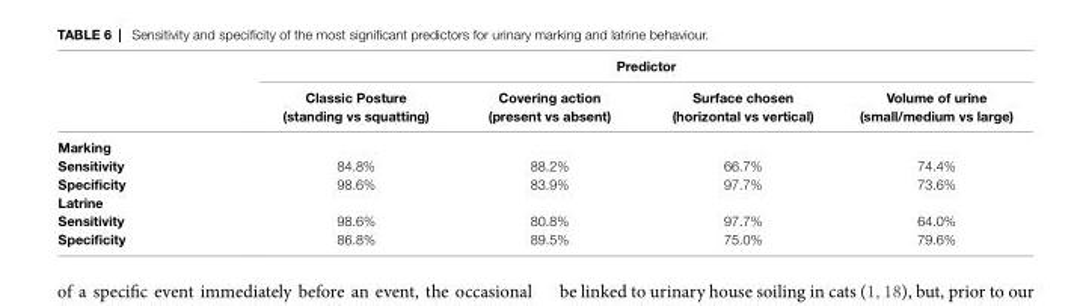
<table><thead><tr><td rowspan="2"></td><td colspan="4">Predictor</td></tr><tr><td>classic Posture (standing vs squatting)</td><td>covering action (present vs absent)</td><td>surface chosen (horizontal vs vertical)</td><td>Volume of urine (small/medium vs large)</td></tr></thead><tbody><tr><td colspan="5">Marking</td></tr><tr><td>sensitivity</td><td>84.8%</td><td>88.2%</td><td>66.7%</td><td>74.4%</td></tr><tr><td>specificity</td><td>98.6%</td><td>83.9%</td><td>97.7%</td><td>73.6%</td></tr><tr><td colspan="5">latrine</td></tr><tr><td>sensitivity</td><td>98.6%</td><td>80.8%</td><td>97.7%</td><td>64.0%</td></tr><tr><td>specificity</td><td>86.8%</td><td>89.5%</td><td>75.0%</td><td>79.6%</td></tr></tbody></table>